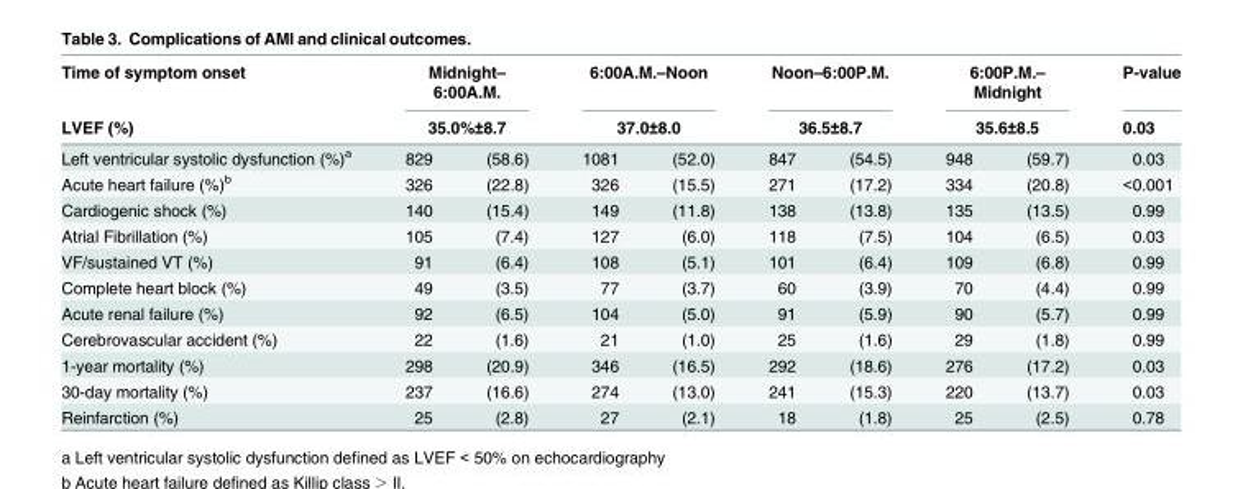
<table><thead><tr><td rowspan="3">Time of symptom onset LVEF (%) Left ventricular systolic dysfunction (%)<sup>a</sup></td><td rowspan="2" colspan="2">Midnight– 6:00A.M. 35.0%±8.7</td><td rowspan="2" colspan="2">6:00A.M.–Noon 37.0±8.0</td><td rowspan="2" colspan="2">Noon–6:00P.M. 36.5±8.7</td><td rowspan="2" colspan="2">6:00P.M.– Midnight 35.6±8.5</td><td rowspan="3">P-value 0.03 0.03</td></tr><tr></tr><tr><td>829</td><td>(58.6)</td><td>1081</td><td>(52.0)</td><td>847</td><td>(54.5)</td><td>948</td><td>(59.7)</td></tr></thead><tbody><tr><td>Acute heart failure (%)<sup>b</sup></td><td>326</td><td>(22.8)</td><td>326</td><td>(15.5)</td><td>271</td><td>(17.2)</td><td>334</td><td>(20.8)</td><td>&lt;0.001</td></tr><tr><td>Cardiogenic shock (%)</td><td>140</td><td>(15.4)</td><td>149</td><td>(11.8)</td><td>138</td><td>(13.8)</td><td>135</td><td>(13.5)</td><td>0.99</td></tr><tr><td>Atrial Fibrillation (%)</td><td>105</td><td>(7.4)</td><td>127</td><td>(6.0)</td><td>118</td><td>(7.5)</td><td>104</td><td>(6.5)</td><td>0.03</td></tr><tr><td>VF/sustained VT (%)</td><td>91</td><td>(6.4)</td><td>108</td><td>(5.1)</td><td>101</td><td>(6.4)</td><td>109</td><td>(6.8)</td><td>0.99</td></tr><tr><td>Complete heart block (%)</td><td>49</td><td>(3.5)</td><td>77</td><td>(3.7)</td><td>60</td><td>(3.9)</td><td>70</td><td>(4.4)</td><td>0.99</td></tr><tr><td>Acute renal failure (%)</td><td>92</td><td>(6.5)</td><td>104</td><td>(5.0)</td><td>91</td><td>(5.9)</td><td>90</td><td>(5.7)</td><td>0.99</td></tr><tr><td>Cerebrovascular accident (%)</td><td>22</td><td>(1.6)</td><td>21</td><td>(1.0)</td><td>25</td><td>(1.6)</td><td>29</td><td>(1.8)</td><td>0.99</td></tr><tr><td>1-year mortality (%)</td><td>298</td><td>(20.9)</td><td>346</td><td>(16.5)</td><td>292</td><td>(18.6)</td><td>276</td><td>(17.2)</td><td>0.03</td></tr><tr><td>30-day mortality (%)</td><td>237</td><td>(16.6)</td><td>274</td><td>(13.0)</td><td>241</td><td>(15.3)</td><td>220</td><td>(13.7)</td><td>0.03</td></tr><tr><td>Reinfarction (%)</td><td>25</td><td>(2.8)</td><td>27</td><td>(2.1)</td><td>18</td><td>(1.8)</td><td>25</td><td>(2.5)</td><td>0.78</td></tr></tbody></table>